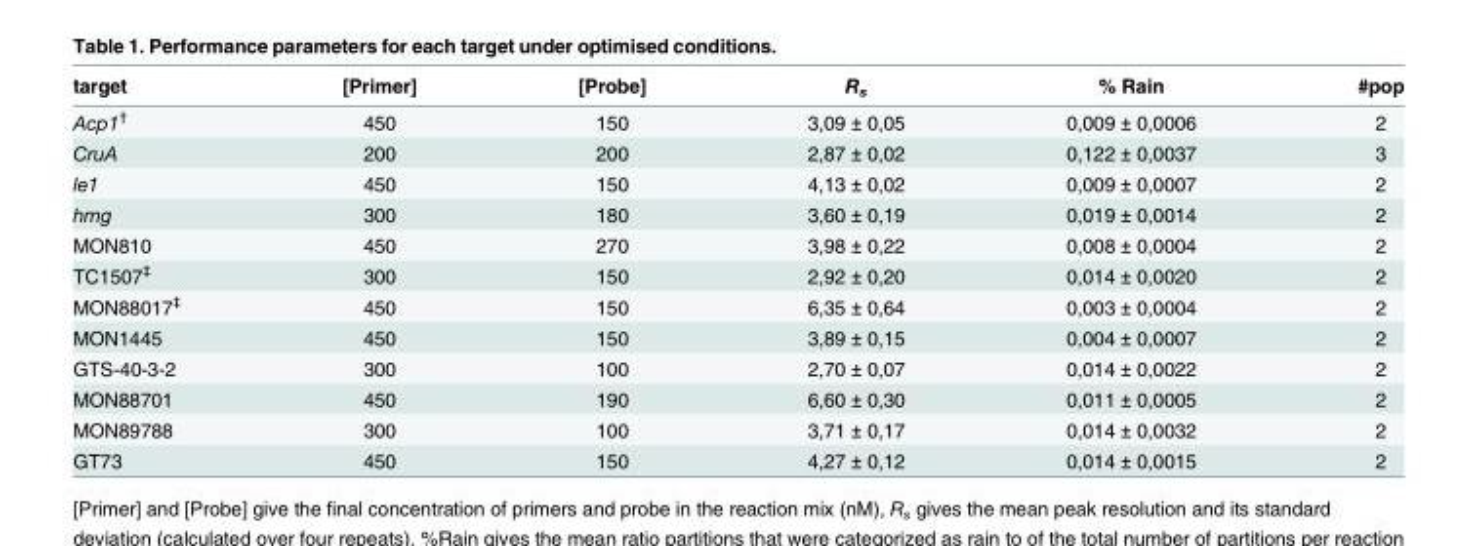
<table><thead><tr><td>target</td><td>[Primer]</td><td>[Probe]</td><td>R<sub>s</sub></td><td>% Rain</td><td>#pop</td></tr></thead><tbody><tr><td>Acp1<sup>†</sup></td><td>450</td><td>150</td><td>3,09 ± 0,05</td><td>0,009 ± 0,0006</td><td>2</td></tr><tr><td>CruA</td><td>200</td><td>200</td><td>2,87 ± 0,02</td><td>0,122 ± 0,0037</td><td>3</td></tr><tr><td>le1</td><td>450</td><td>150</td><td>4,13 ± 0,02</td><td>0,009 ± 0,0007</td><td>2</td></tr><tr><td>hmg</td><td>300</td><td>180</td><td>3,60 ± 0,19</td><td>0,019 ± 0,0014</td><td>2</td></tr><tr><td>MON810</td><td>450</td><td>270</td><td>3,98 ± 0,22</td><td>0,008 ± 0,0004</td><td>2</td></tr><tr><td>TC1507<sup>‡</sup></td><td>300</td><td>150</td><td>2,92 ± 0,20</td><td>0,014 ± 0,0020</td><td>2</td></tr><tr><td>MON88017<sup>‡</sup></td><td>450</td><td>150</td><td>6,35 ± 0,64</td><td>0,003 ± 0,0004</td><td>2</td></tr><tr><td>MON1445</td><td>450</td><td>150</td><td>3,89 ± 0,15</td><td>0,004 ± 0,0007</td><td>2</td></tr><tr><td>GTS-40-3-2</td><td>300</td><td>100</td><td>2,70 ± 0,07</td><td>0,014 ± 0,0022</td><td>2</td></tr><tr><td>MON88701</td><td>450</td><td>190</td><td>6,60 ± 0,30</td><td>0,011 ± 0,0005</td><td>2</td></tr><tr><td>MON89788</td><td>300</td><td>100</td><td>3,71 ± 0,17</td><td>0,014 ± 0,0032</td><td>2</td></tr><tr><td>GT73</td><td>450</td><td>150</td><td>4,27 ± 0,12</td><td>0,014 ± 0,0015</td><td>2</td></tr></tbody></table>